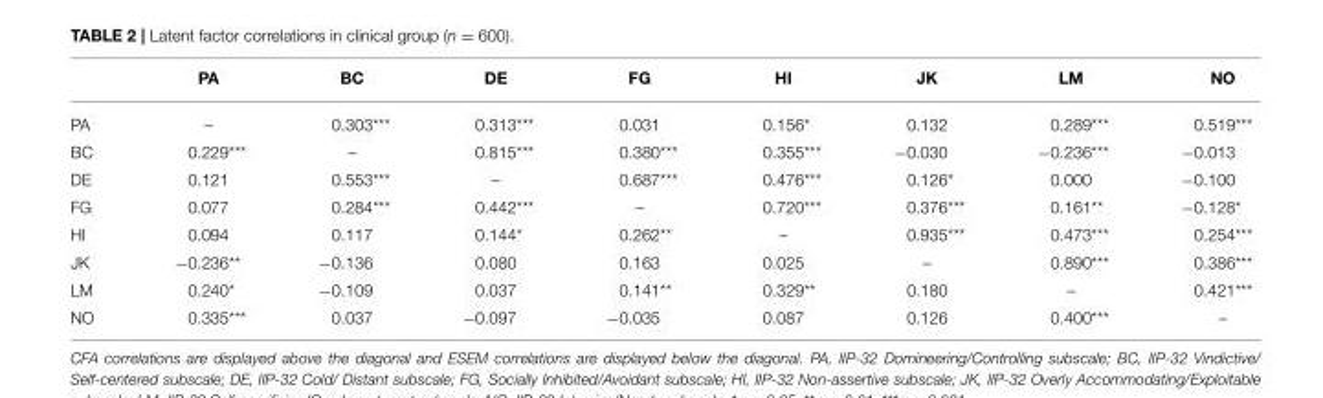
<table><thead><tr><td></td><td>PA</td><td>BC</td><td>DE</td><td>FG</td><td>HI</td><td>JK</td><td>LM</td><td>NO</td></tr></thead><tbody><tr><td>PA</td><td>–</td><td>0.303***</td><td>0.313***</td><td>0.031</td><td>0.156*</td><td>0.132</td><td>0.289***</td><td>0.519***</td></tr><tr><td>BC</td><td>0.229***</td><td>–</td><td>0.815***</td><td>0.380***</td><td>0.355***</td><td>−0.030</td><td>−0.236***</td><td>−0.013</td></tr><tr><td>DE</td><td>0.121</td><td>0.553***</td><td>–</td><td>0.687***</td><td>0.476***</td><td>0.126*</td><td>0.000</td><td>−0.100</td></tr><tr><td>FG</td><td>0.077</td><td>0.284***</td><td>0.442***</td><td>–</td><td>0.720***</td><td>0.376***</td><td>0.161**</td><td>−0.128*</td></tr><tr><td>HI</td><td>0.094</td><td>0.117</td><td>0.144*</td><td>0.262**</td><td>–</td><td>0.935***</td><td>0.473***</td><td>0.254***</td></tr><tr><td>JK</td><td>−0.236**</td><td>−0.136</td><td>0.080</td><td>0.163</td><td>0.025</td><td>–</td><td>0.890***</td><td>0.386***</td></tr><tr><td>LM</td><td>0.240*</td><td>−0.109</td><td>0.037</td><td>0.141**</td><td>0.329**</td><td>0.180</td><td>–</td><td>0.421***</td></tr><tr><td>NO</td><td>0.335***</td><td>0.037</td><td>−0.097</td><td>−0.035</td><td>0.087</td><td>0.126</td><td>0.400***</td><td>–</td></tr></tbody></table>